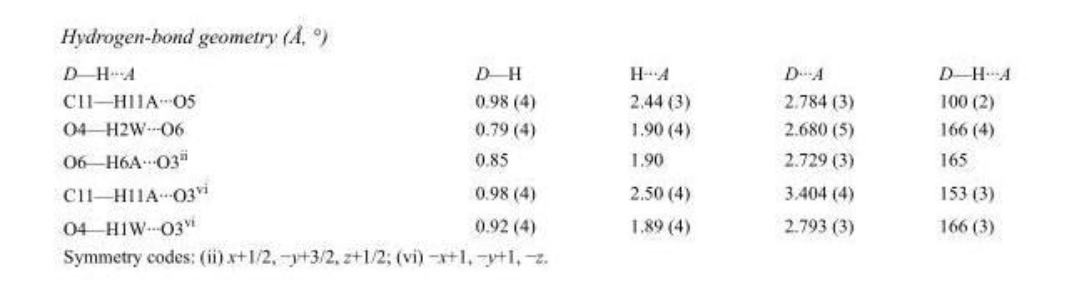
<table><tbody><tr><td>D—H···A</td><td>D—H</td><td>H···A</td><td>D···A</td><td>D—H···A</td></tr><tr><td>C11—H11A···O5</td><td>0.98 (4)</td><td>2.44 (3)</td><td>2.784 (3)</td><td>100 (2)</td></tr><tr><td>O4—H2W···O6</td><td>0.79 (4)</td><td>1.90 (4)</td><td>2.680 (5)</td><td>166 (4)</td></tr><tr><td>O6—H6A···O3<sup>ii</sup></td><td>0.85</td><td>1.90</td><td>2.729 (3)</td><td>165</td></tr><tr><td>C11—H11A···O3<sup>vi</sup></td><td>0.98 (4)</td><td>2.50 (4)</td><td>3.404 (4)</td><td>153 (3)</td></tr><tr><td>O4—H1W···O3<sup>vi</sup></td><td>0.92 (4)</td><td>1.89 (4)</td><td>2.793 (3)</td><td>166 (3)</td></tr></tbody></table>